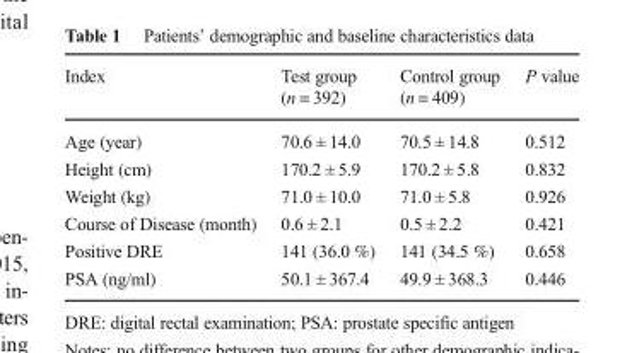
<table><thead><tr><td rowspan="2">Index</td><td rowspan="2">Test group (n = 392)</td><td rowspan="2">Control group (n = 409)</td><td rowspan="2">P value</td></tr><tr></tr></thead><tbody><tr><td>Age (year)</td><td>70.6 ± 14.0</td><td>70.5 ± 14.8</td><td>0.512</td></tr><tr><td>Height (cm)</td><td>170.2 ± 5.9</td><td>170.2 ± 5.8</td><td>0.832</td></tr><tr><td>Weight (kg)</td><td>71.0 ± 10.0</td><td>71.0 ± 5.8</td><td>0.926</td></tr><tr><td>Course of Disease (month)</td><td>0.6 ± 2.1</td><td>0.5 ± 2.2</td><td>0.421</td></tr><tr><td>Positive DRE</td><td>141 (36.0 %)</td><td>141 (34.5 %)</td><td>0.658</td></tr><tr><td>PSA (ng/ml)</td><td>50.1 ± 367.4</td><td>49.9 ± 368.3</td><td>0.446</td></tr></tbody></table>